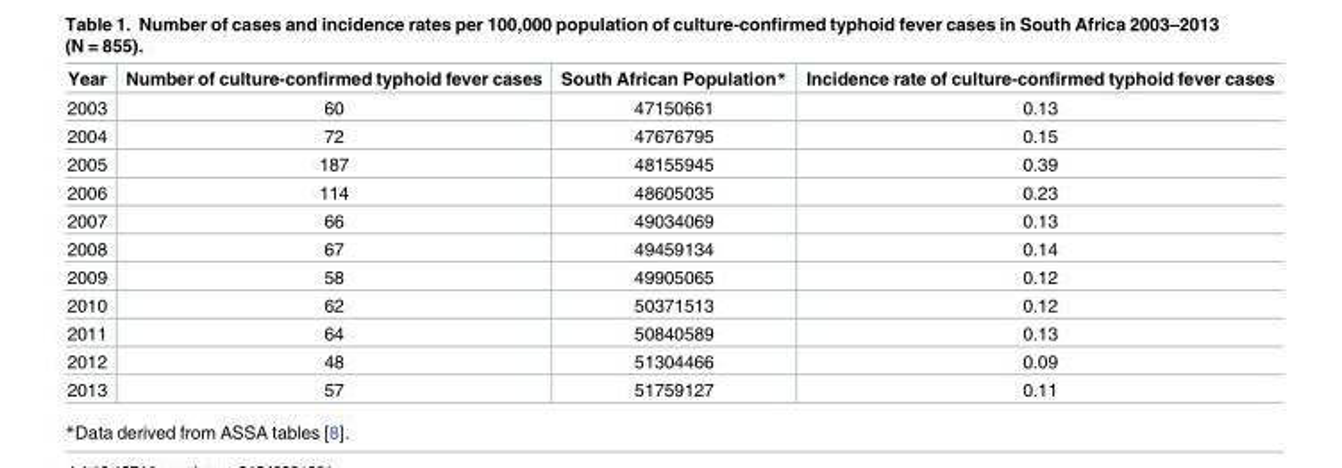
<table><thead><tr><td>Year</td><td>Number of culture-confirmed typhoid fever cases</td><td>South African Population*</td><td>Incidence rate of culture-confirmed typhoid fever cases</td></tr></thead><tbody><tr><td>2003</td><td>60</td><td>47150661</td><td>0.13</td></tr><tr><td>2004</td><td>72</td><td>47676795</td><td>0.15</td></tr><tr><td>2005</td><td>187</td><td>48155945</td><td>0.39</td></tr><tr><td>2006</td><td>114</td><td>48605035</td><td>0.23</td></tr><tr><td>2007</td><td>66</td><td>49034069</td><td>0.13</td></tr><tr><td>2008</td><td>67</td><td>49459134</td><td>0.14</td></tr><tr><td>2009</td><td>58</td><td>49905065</td><td>0.12</td></tr><tr><td>2010</td><td>62</td><td>50371513</td><td>0.12</td></tr><tr><td>2011</td><td>64</td><td>50840589</td><td>0.13</td></tr><tr><td>2012</td><td>48</td><td>51304466</td><td>0.09</td></tr><tr><td>2013</td><td>57</td><td>51759127</td><td>0.11</td></tr></tbody></table>